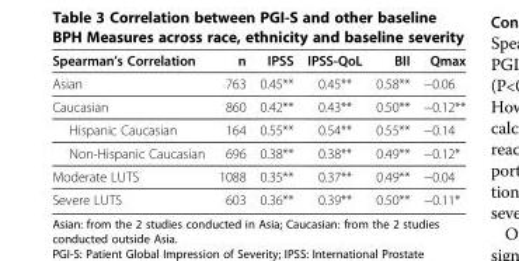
<table><thead><tr><td>Spearman’s Correlation</td><td>n</td><td>IPSS</td><td>IPSS-QoL</td><td>BII</td><td>Qmax</td></tr></thead><tbody><tr><td>Asian</td><td>763</td><td>0.45**</td><td>0.45**</td><td>0.58**</td><td>−0.06</td></tr><tr><td>Caucasian</td><td>860</td><td>0.42**</td><td>0.43**</td><td>0.50**</td><td>−0.12**</td></tr><tr><td>Hispanic Caucasian</td><td>164</td><td>0.55**</td><td>0.54**</td><td>0.55**</td><td>−0.14</td></tr><tr><td>Non-Hispanic Caucasian</td><td>696</td><td>0.38**</td><td>0.38**</td><td>0.49**</td><td>−0.12*</td></tr><tr><td>Moderate LUTS</td><td>1088</td><td>0.35**</td><td>0.37**</td><td>0.49**</td><td>−0.04</td></tr><tr><td>Severe LUTS</td><td>603</td><td>0.36**</td><td>0.39**</td><td>0.50**</td><td>−0.11*</td></tr></tbody></table>